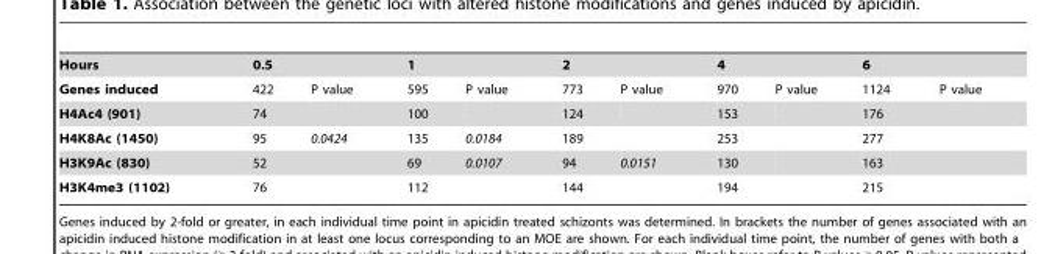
<table><tbody><tr><td>Hours</td><td colspan="2">0.5</td><td colspan="2">1</td><td colspan="2">2</td><td colspan="2">4</td><td colspan="2">6</td></tr><tr><td>Genes induced</td><td>422</td><td>P value</td><td>595</td><td>P value</td><td>773</td><td>P value</td><td>970</td><td>P value</td><td>1124</td><td>P value</td></tr><tr><td>H4Ac4 (901)</td><td>74</td><td></td><td>100</td><td></td><td>124</td><td></td><td>153</td><td></td><td>176</td><td></td></tr><tr><td>H4K8Ac (1450)</td><td>95</td><td>0.0424</td><td>135</td><td>0.0184</td><td>189</td><td></td><td>253</td><td></td><td>277</td><td></td></tr><tr><td>H3K9Ac (830)</td><td>52</td><td></td><td>69</td><td>0.0107</td><td>94</td><td>0.0151</td><td>130</td><td></td><td>163</td><td></td></tr><tr><td>H3K4me3 (1102)</td><td>76</td><td></td><td>112</td><td></td><td>144</td><td></td><td>194</td><td></td><td>215</td><td></td></tr></tbody></table>